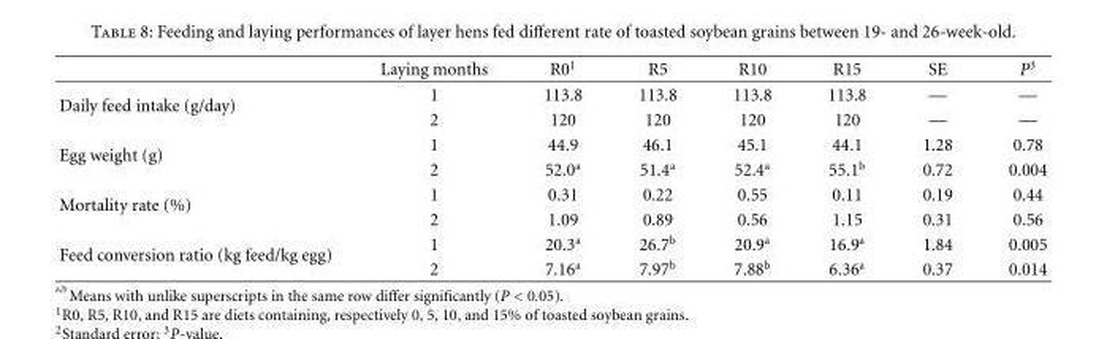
<table><thead><tr><td></td><td>Laying months</td><td>R0<sup>1</sup></td><td>R5</td><td>R10</td><td>R15</td><td>SE</td><td>P<sup>3</sup></td></tr></thead><tbody><tr><td rowspan="2">Daily feed intake (g/day)</td><td>1</td><td>113.8</td><td>113.8</td><td>113.8</td><td>113.8</td><td>—</td><td>—</td></tr><tr><td>2</td><td>120</td><td>120</td><td>120</td><td>120</td><td>—</td><td>—</td></tr><tr><td rowspan="2">Egg weight (g)</td><td>1</td><td>44.9</td><td>46.1</td><td>45.1</td><td>44.1</td><td>1.28</td><td>0.78</td></tr><tr><td>2</td><td>52.0<sup>a</sup></td><td>51.4<sup>a</sup></td><td>52.4<sup>a</sup></td><td>55.1<sup>b</sup></td><td>0.72</td><td>0.004</td></tr><tr><td rowspan="2">Mortality rate (%)</td><td>1</td><td>0.31</td><td>0.22</td><td>0.55</td><td>0.11</td><td>0.19</td><td>0.44</td></tr><tr><td>2</td><td>1.09</td><td>0.89</td><td>0.56</td><td>1.15</td><td>0.31</td><td>0.56</td></tr><tr><td rowspan="2">Feed conversion ratio (kg feed/kg egg)</td><td>1</td><td>20.3<sup>a</sup></td><td>26.7<sup>b</sup></td><td>20.9<sup>a</sup></td><td>16.9<sup>a</sup></td><td>1.84</td><td>0.005</td></tr><tr><td>2</td><td>7.16<sup>a</sup></td><td>7.97<sup>b</sup></td><td>7.88<sup>b</sup></td><td>6.36<sup>a</sup></td><td>0.37</td><td>0.014</td></tr></tbody></table>